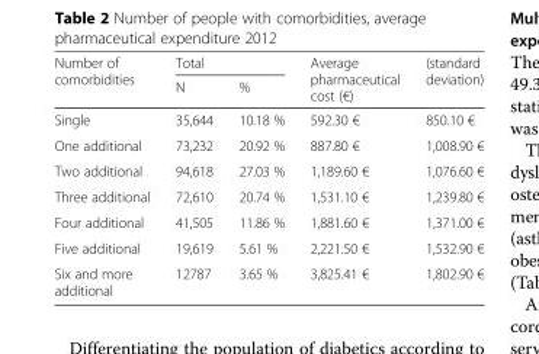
<table><thead><tr><td rowspan="2">Number of comorbidities</td><td colspan="2">Total</td><td rowspan="2">Average pharmaceutical cost (€)</td><td rowspan="2">(standard deviation)</td></tr><tr><td>N</td><td>%</td></tr></thead><tbody><tr><td>Single</td><td>35,644</td><td>10.18 %</td><td>592.30 €</td><td>850.10 €</td></tr><tr><td>One additional</td><td>73,232</td><td>20.92 %</td><td>887.80 €</td><td>1,008.90 €</td></tr><tr><td>Two additional</td><td>94,618</td><td>27.03 %</td><td>1,189.60 €</td><td>1,076.60 €</td></tr><tr><td>Three additional</td><td>72,610</td><td>20.74 %</td><td>1,531.10 €</td><td>1,239.80 €</td></tr><tr><td>Four additional</td><td>41,505</td><td>11.86 %</td><td>1,881.60 €</td><td>1,371.00 €</td></tr><tr><td>Five additional</td><td>19,619</td><td>5.61 %</td><td>2,221.50 €</td><td>1,532.90 €</td></tr><tr><td>Six and more additional</td><td>12787</td><td>3.65 %</td><td>3,825.41 €</td><td>1,802.90 €</td></tr></tbody></table>